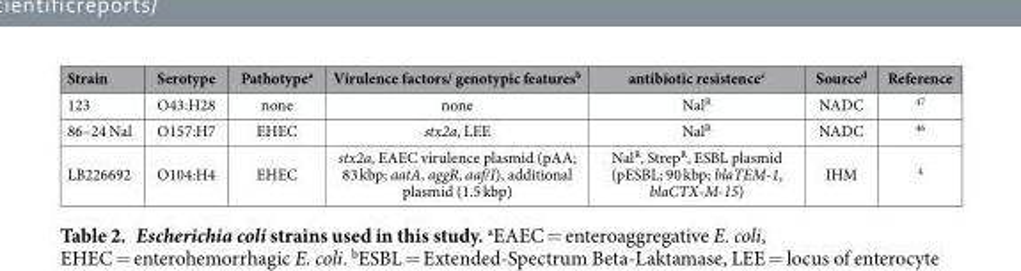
<table><thead><tr><td>Strain</td><td>Serotype</td><td>Pathotype<sup>a</sup></td><td>Virulence factors/ genotypic features<sup>b</sup></td><td>antibiotic resistence<sup>c</sup></td><td>Source<sup>d</sup></td><td>Reference</td></tr></thead><tbody><tr><td>123</td><td>O43:H28</td><td>none</td><td>none</td><td>Nal<sup>R</sup></td><td>NADC</td><td>47</td></tr><tr><td>86–24 Nal</td><td>O157:H7</td><td>EHEC</td><td>stx2a, LEE</td><td>Nal<sup>R</sup></td><td>NADC</td><td>46</td></tr><tr><td>LB226692</td><td>O104:H4</td><td>EHEC</td><td>stx2a, EAEC virulence plasmid (pAA; 83 kbp; aatA, aggR, aaf/I), additional plasmid (1.5 kbp)</td><td>Nal<sup>R</sup>, Strep<sup>R</sup>, ESBL plasmid (pESBL; 90 kbp; blaTEM-1, blaCTX-M-15)</td><td>IHM</td><td>4</td></tr></tbody></table>